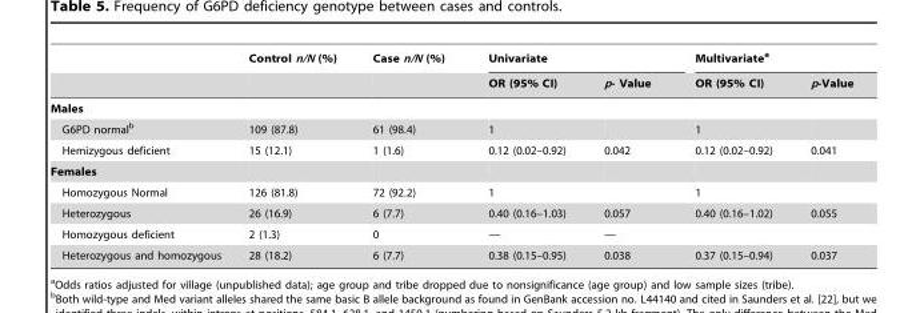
<table><thead><tr><td rowspan="2"></td><td rowspan="2">Control n/N (%)</td><td rowspan="2">Case n/N (%)</td><td colspan="2">Univariate</td><td colspan="2">Multivariate<sup>a</sup></td></tr><tr><td>OR (95% CI)</td><td>p- Value</td><td>OR (95% CI)</td><td>p-Value</td></tr></thead><tbody><tr><td colspan="7">Males</td></tr><tr><td>G6PD normal<sup>b</sup></td><td>109 (87.8)</td><td>61 (98.4)</td><td>1</td><td></td><td>1</td><td></td></tr><tr><td>Hemizygous deficient</td><td>15 (12.1)</td><td>1 (1.6)</td><td>0.12 (0.02–0.92)</td><td>0.042</td><td>0.12 (0.02–0.92)</td><td>0.041</td></tr><tr><td colspan="7">Females</td></tr><tr><td>Homozygous Normal</td><td>126 (81.8)</td><td>72 (92.2)</td><td>1</td><td></td><td>1</td><td></td></tr><tr><td>Heterozygous</td><td>26 (16.9)</td><td>6 (7.7)</td><td>0.40 (0.16–1.03)</td><td>0.057</td><td>0.40 (0.16–1.02)</td><td>0.055</td></tr><tr><td>Homozygous deficient</td><td>2 (1.3)</td><td>0</td><td>—</td><td>—</td><td></td><td></td></tr><tr><td>Heterozygous and homozygous</td><td>28 (18.2)</td><td>6 (7.7)</td><td>0.38 (0.15–0.95)</td><td>0.038</td><td>0.37 (0.15–0.94)</td><td>0.037</td></tr></tbody></table>